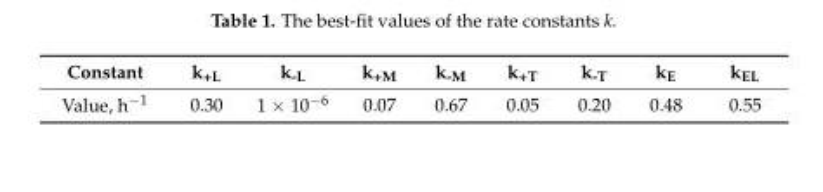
<table><thead><tr><td>Constant</td><td>k<sub>+L</sub></td><td>k<sub>-L</sub></td><td>k<sub>+M</sub></td><td>k<sub>-M</sub></td><td>k<sub>+T</sub></td><td>k<sub>-T</sub></td><td>k<sub>E</sub></td><td>k<sub>EL</sub></td></tr></thead><tbody><tr><td>Value, h<sup>−1</sup></td><td>0.30</td><td>1 × 10<sup>−6</sup></td><td>0.07</td><td>0.67</td><td>0.05</td><td>0.20</td><td>0.48</td><td>0.55</td></tr></tbody></table>